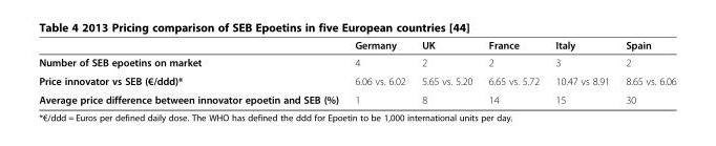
<table><thead><tr><td></td><td>Germany</td><td>UK</td><td>France</td><td>Italy</td><td>Spain</td></tr></thead><tbody><tr><td>Number of SEB epoetins on market</td><td>4</td><td>2</td><td>2</td><td>3</td><td>2</td></tr><tr><td>Price innovator vs SEB (€/ddd)*</td><td>6.06 vs. 6.02</td><td>5.65 vs. 5.20</td><td>6.65 vs. 5.72</td><td>10.47 vs 8.91</td><td>8.65 vs. 6.06</td></tr><tr><td>Average price difference between innovator epoetin and SEB (%)</td><td>1</td><td>8</td><td>14</td><td>15</td><td>30</td></tr></tbody></table>